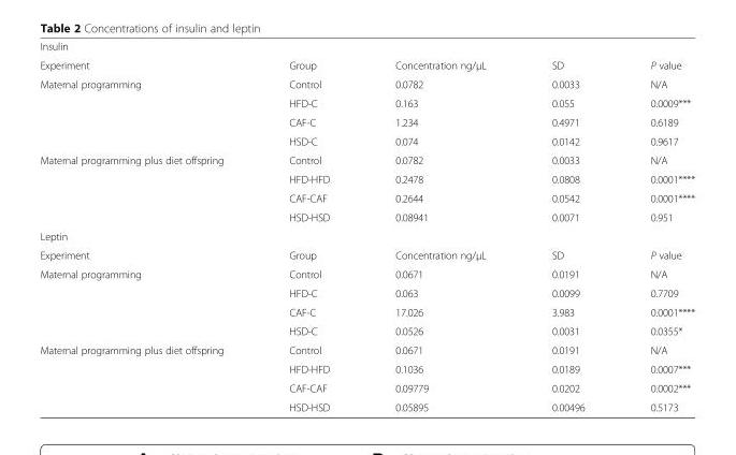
<table><tbody><tr><td colspan="5">Insulin</td></tr><tr><td>Experiment</td><td>Group</td><td>Concentration ng/μL</td><td>SD</td><td>P value</td></tr><tr><td rowspan="4">Maternal programming</td><td>Control</td><td>0.0782</td><td>0.0033</td><td>N/A</td></tr><tr><td>HFD-C</td><td>0.163</td><td>0.055</td><td>0.0009***</td></tr><tr><td>CAF-C</td><td>1.234</td><td>0.4971</td><td>0.6189</td></tr><tr><td>HSD-C</td><td>0.074</td><td>0.0142</td><td>0.9617</td></tr><tr><td rowspan="4">Maternal programming plus diet offspring</td><td>Control</td><td>0.0782</td><td>0.0033</td><td>N/A</td></tr><tr><td>HFD-HFD</td><td>0.2478</td><td>0.0808</td><td>0.0001****</td></tr><tr><td>CAF-CAF</td><td>0.2644</td><td>0.0542</td><td>0.0001****</td></tr><tr><td>HSD-HSD</td><td>0.08941</td><td>0.0071</td><td>0.951</td></tr><tr><td colspan="5">Leptin</td></tr><tr><td>Experiment</td><td>Group</td><td>Concentration ng/μL</td><td>SD</td><td>P value</td></tr><tr><td rowspan="4">Maternal programming</td><td>Control</td><td>0.0671</td><td>0.0191</td><td>N/A</td></tr><tr><td>HFD-C</td><td>0.063</td><td>0.0099</td><td>0.7709</td></tr><tr><td>CAF-C</td><td>17.026</td><td>3.983</td><td>0.0001****</td></tr><tr><td>HSD-C</td><td>0.0526</td><td>0.0031</td><td>0.0355*</td></tr><tr><td rowspan="4">Maternal programming plus diet offspring</td><td>Control</td><td>0.0671</td><td>0.0191</td><td>N/A</td></tr><tr><td>HFD-HFD</td><td>0.1036</td><td>0.0189</td><td>0.0007***</td></tr><tr><td>CAF-CAF</td><td>0.09779</td><td>0.0202</td><td>0.0002***</td></tr><tr><td>HSD-HSD</td><td>0.05895</td><td>0.00496</td><td>0.5173</td></tr></tbody></table>